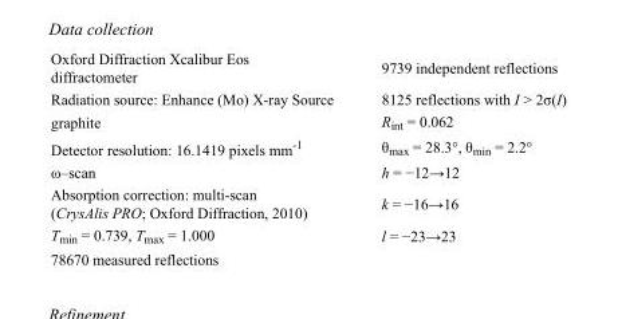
<table><tbody><tr><td>Oxford Diffraction Xcalibur Eos diffractometer</td><td>9739 independent reflections</td></tr><tr><td>Radiation source: Enhance (Mo) X-ray Source</td><td>8125 reflections with I &gt; 2σ(I)</td></tr><tr><td>graphite</td><td>R<sub>int</sub> = 0.062</td></tr><tr><td>Detector resolution: 16.1419 pixels mm<sup>-1</sup></td><td>θ<sub>max</sub> = 28.3°, θ<sub>min</sub> = 2.2°</td></tr><tr><td>ω–scan</td><td>h = −12→12</td></tr><tr><td>Absorption correction: multi-scan (CrysAlis PRO; Oxford Diffraction, 2010)</td><td>k = −16→16</td></tr><tr><td>T<sub>min</sub> = 0.739, T<sub>max</sub> = 1.000</td><td>l = −23→23</td></tr><tr><td>78670 measured reflections</td><td></td></tr></tbody></table>